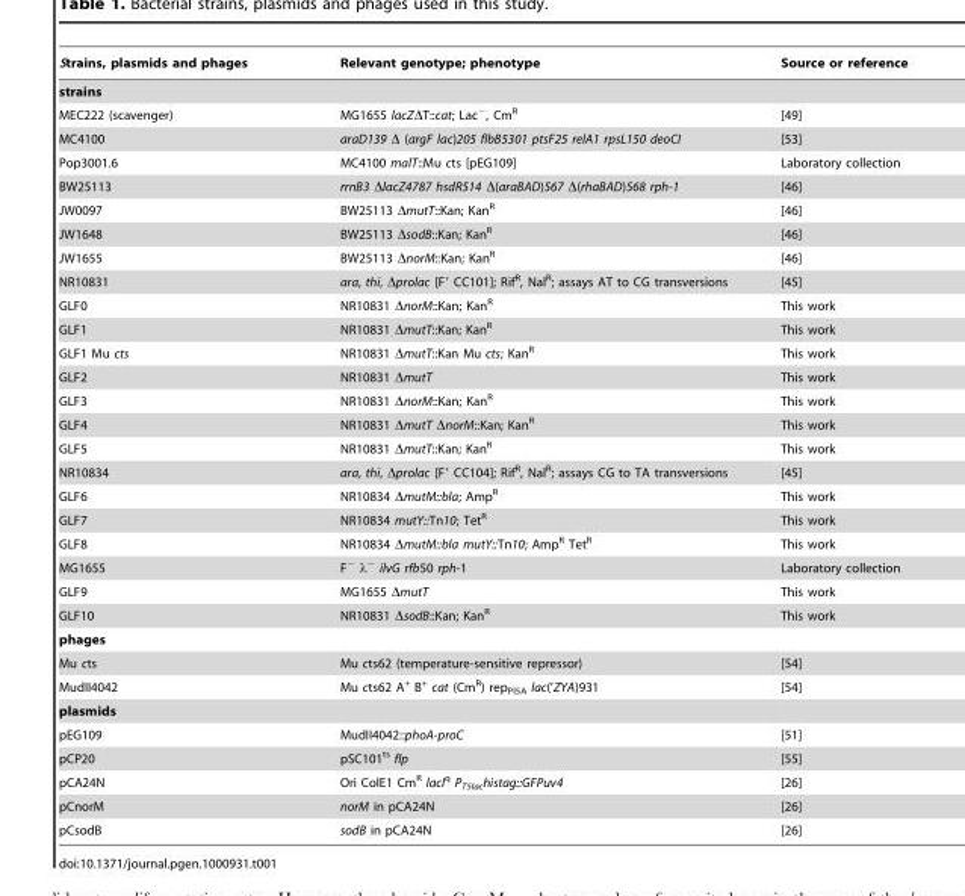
<table><thead><tr><td>Strains, plasmids and phages</td><td>Relevant genotype; phenotype</td><td>Source or reference</td></tr></thead><tbody><tr><td colspan="3">strains</td></tr><tr><td>MEC222 (scavenger)</td><td>MG1655 lacZΔT::cat; Lac<sup>−</sup>, Cm<sup>R</sup></td><td>[49]</td></tr><tr><td>MC4100</td><td>araD139 Δ (argF lac)205 flbB5301 ptsF25 relA1 rpsL150 deoCI</td><td>[53]</td></tr><tr><td>Pop3001.6</td><td>MC4100 malT::Mu cts [pEG109]</td><td>Laboratory collection</td></tr><tr><td>BW25113</td><td>rrnB3 ΔlacZ4787 hsdR514 Δ(araBAD)567 Δ(rhaBAD)568 rph-1</td><td>[46]</td></tr><tr><td>JW0097</td><td>BW25113 ΔmutT::Kan; Kan<sup>R</sup></td><td>[46]</td></tr><tr><td>JW1648</td><td>BW25113 ΔsodB::Kan; Kan<sup>R</sup></td><td>[46]</td></tr><tr><td>JW1655</td><td>BW25113 ΔnorM::Kan; Kan<sup>R</sup></td><td>[46]</td></tr><tr><td>NR10831</td><td>ara, thi, Δprolac [F′ CC101]; Rif<sup>R</sup>, Nal<sup>R</sup>; assays AT to CG transversions</td><td>[45]</td></tr><tr><td>GLF0</td><td>NR10831 ΔnorM::Kan; Kan<sup>R</sup></td><td>This work</td></tr><tr><td>GLF1</td><td>NR10831 ΔmutT::Kan; Kan<sup>R</sup></td><td>This work</td></tr><tr><td>GLF1 Mu cts</td><td>NR10831 ΔmutT::Kan Mu cts; Kan<sup>R</sup></td><td>This work</td></tr><tr><td>GLF2</td><td>NR10831 ΔmutT</td><td>This work</td></tr><tr><td>GLF3</td><td>NR10831 ΔnorM::Kan; Kan<sup>R</sup></td><td>This work</td></tr><tr><td>GLF4</td><td>NR10831 ΔmutT ΔnorM::Kan; Kan<sup>R</sup></td><td>This work</td></tr><tr><td>GLF5</td><td>NR10831 ΔmutT::Kan; Kan<sup>R</sup></td><td>This work</td></tr><tr><td>NR10834</td><td>ara, thi, Δprolac [F′ CC104]; Rif<sup>R</sup>, Nal<sup>R</sup>; assays CG to TA transversions</td><td>[45]</td></tr><tr><td>GLF6</td><td>NR10834 ΔmutM::bla; Amp<sup>R</sup></td><td>This work</td></tr><tr><td>GLF7</td><td>NR10834 mutY::Tn10; Tet<sup>R</sup></td><td>This work</td></tr><tr><td>GLF8</td><td>NR10834 ΔmutM::bla mutY::Tn10; Amp<sup>R</sup> Tet<sup>R</sup></td><td>This work</td></tr><tr><td>MG1655</td><td>F<sup>−</sup> λ<sup>−</sup> ilvG rfb50 rph-1</td><td>Laboratory collection</td></tr><tr><td>GLF9</td><td>MG1655 ΔmutT</td><td>This work</td></tr><tr><td>GLF10</td><td>NR10831 ΔsodB::Kan; Kan<sup>R</sup></td><td>This work</td></tr><tr><td colspan="3">phages</td></tr><tr><td>Mu cts</td><td>Mu cts62 (temperature-sensitive repressor)</td><td>[54]</td></tr><tr><td>MudII4042</td><td>Mu cts62 A<sup>+</sup> B<sup>+</sup> cat (Cm<sup>R</sup>) rep<sub>Pl5A</sub> lac(’ZYA)931</td><td>[54]</td></tr><tr><td colspan="3">plasmids</td></tr><tr><td>pEG109</td><td>MudII4042::phoA-proC</td><td>[51]</td></tr><tr><td>pCP20</td><td>pSC101<sup>ts</sup> flp</td><td>[55]</td></tr><tr><td>pCA24N</td><td>Ori ColE1 Cm<sup>R</sup> lacI<sup>q</sup> P<sub>T5lac</sub>histag::GFPuv4</td><td>[26]</td></tr><tr><td>pCnorM</td><td>norM in pCA24N</td><td>[26]</td></tr><tr><td>pCsodB</td><td>sodB in pCA24N</td><td>[26]</td></tr></tbody></table>